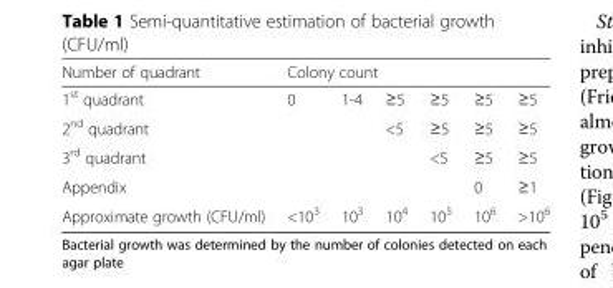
<table><thead><tr><td rowspan="2">Number of quadrant 1<sup>st</sup> quadrant</td><td colspan="6">Colony count</td></tr><tr><td>0</td><td>1-4</td><td>≥5</td><td>≥5</td><td>≥5</td><td>≥5</td></tr></thead><tbody><tr><td>2<sup>nd</sup> quadrant</td><td></td><td></td><td>&lt;5</td><td>≥5</td><td>≥5</td><td>≥5</td></tr><tr><td>3<sup>rd</sup> quadrant</td><td></td><td></td><td></td><td>&lt;5</td><td>≥5</td><td>≥5</td></tr><tr><td>Appendix</td><td></td><td></td><td></td><td></td><td>0</td><td>≥1</td></tr><tr><td>Approximate growth (CFU/ml)</td><td>&lt;10<sup>3</sup></td><td>10<sup>3</sup></td><td>10<sup>4</sup></td><td>10<sup>5</sup></td><td>10<sup>6</sup></td><td>&gt;10<sup>6</sup></td></tr></tbody></table>